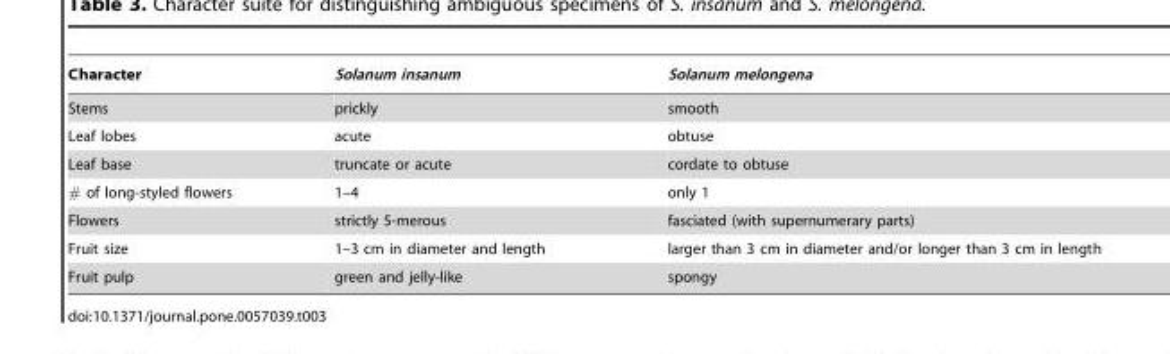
<table><thead><tr><td>Character</td><td>Solanum insanum</td><td>Solanum melongena</td></tr></thead><tbody><tr><td>Stems</td><td>prickly</td><td>smooth</td></tr><tr><td>Leaf lobes</td><td>acute</td><td>obtuse</td></tr><tr><td>Leaf base</td><td>truncate or acute</td><td>cordate to obtuse</td></tr><tr><td># of long-styled flowers</td><td>1–4</td><td>only 1</td></tr><tr><td>Flowers</td><td>strictly 5-merous</td><td>fasciated (with supernumerary parts)</td></tr><tr><td>Fruit size</td><td>1–3 cm in diameter and length</td><td>larger than 3 cm in diameter and/or longer than 3 cm in length</td></tr><tr><td>Fruit pulp</td><td>green and jelly-like</td><td>spongy</td></tr></tbody></table>